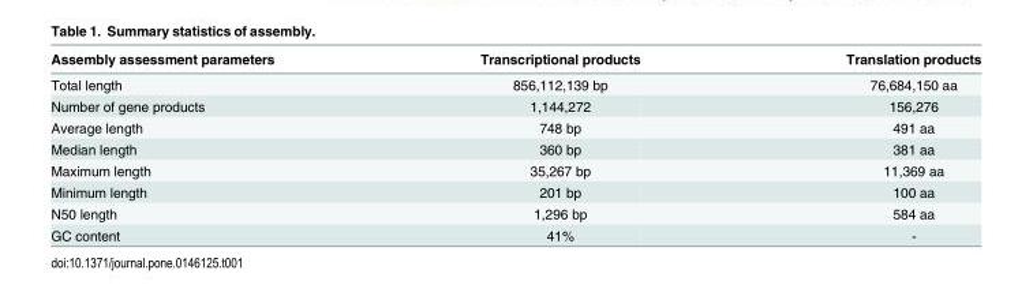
<table><thead><tr><td>Assembly assessment parameters</td><td>Transcriptional products</td><td>Translation products</td></tr></thead><tbody><tr><td>Total length</td><td>856,112,139 bp</td><td>76,684,150 aa</td></tr><tr><td>Number of gene products</td><td>1,144,272</td><td>156,276</td></tr><tr><td>Average length</td><td>748 bp</td><td>491 aa</td></tr><tr><td>Median length</td><td>360 bp</td><td>381 aa</td></tr><tr><td>Maximum length</td><td>35,267 bp</td><td>11,369 aa</td></tr><tr><td>Minimum length</td><td>201 bp</td><td>100 aa</td></tr><tr><td>N50 length</td><td>1,296 bp</td><td>584 aa</td></tr><tr><td>GC content</td><td>41%</td><td>-</td></tr></tbody></table>